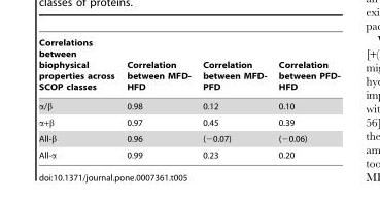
<table><thead><tr><td>Correlations between biophysical properties across SCOP classes</td><td>Correlation between MFD- HFD</td><td>Correlation between MFD- PFD</td><td>Correlation between PFD- HFD</td></tr></thead><tbody><tr><td>α/β</td><td>0.98</td><td>0.12</td><td>0.10</td></tr><tr><td>α+β</td><td>0.97</td><td>0.45</td><td>0.39</td></tr><tr><td>All-β</td><td>0.96</td><td>(−0.07)</td><td>(−0.06)</td></tr><tr><td>All-α</td><td>0.99</td><td>0.23</td><td>0.20</td></tr></tbody></table>